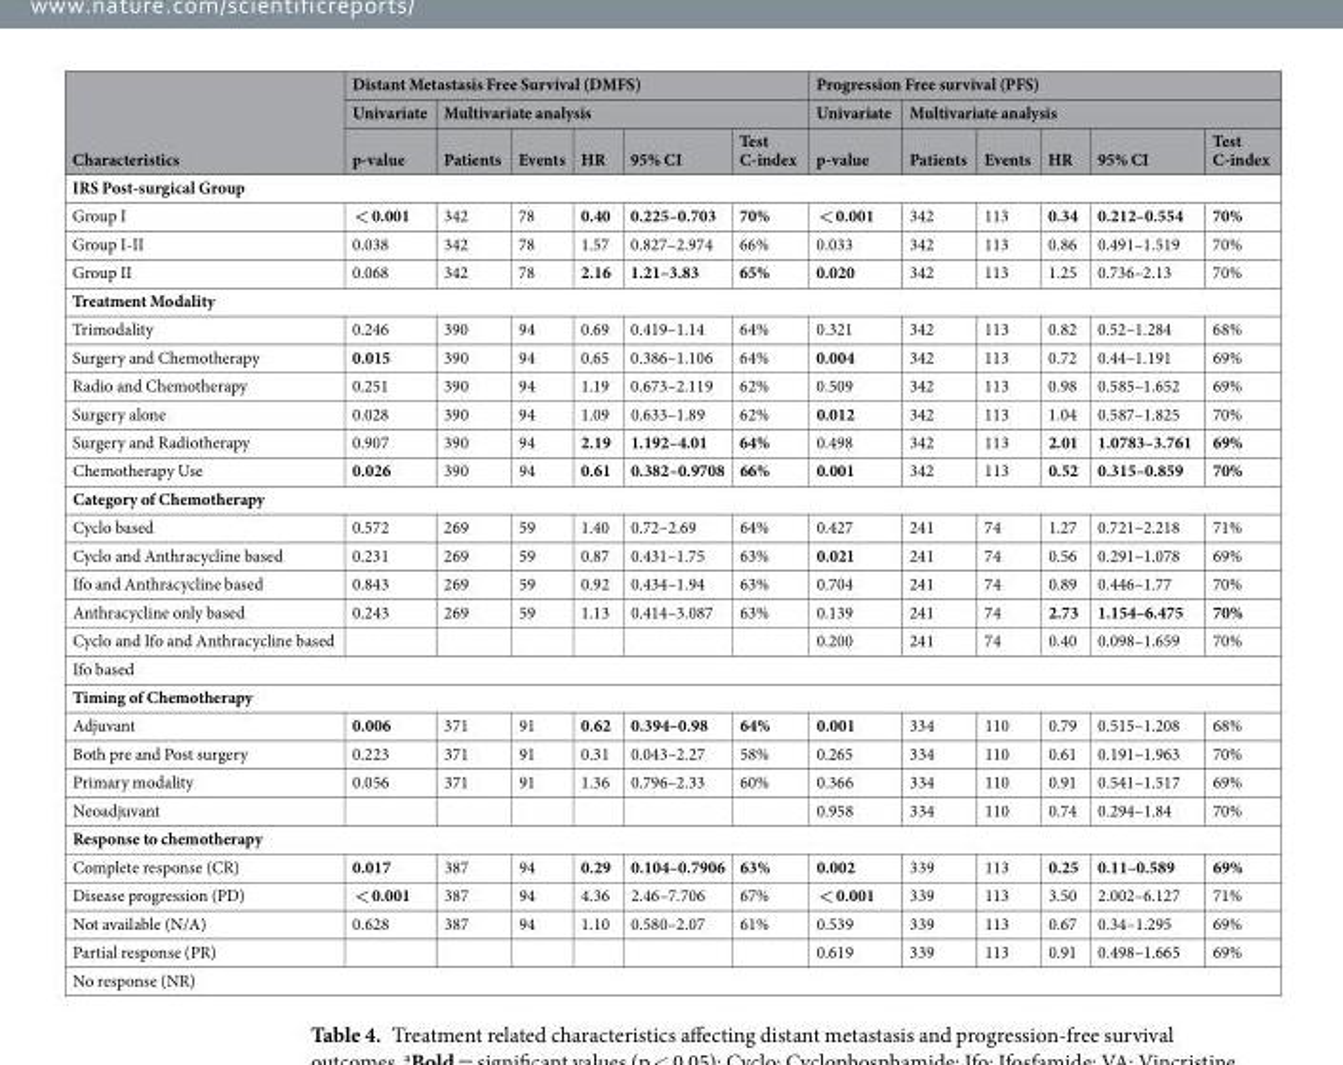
<table><thead><tr><td rowspan="3">Characteristics</td><td colspan="6">Distant Metastasis Free Survival (DMFS)</td><td colspan="6">Progression Free survival (PFS)</td></tr><tr><td rowspan="2">Univariate p-value</td><td colspan="5">Multivariate analysis</td><td rowspan="2">Univariate p-value</td><td colspan="5">Multivariate analysis</td></tr><tr><td>Patients</td><td>Events</td><td>HR</td><td>95% CI</td><td>Test C-index</td><td>Patients</td><td>Events</td><td>HR</td><td>95% CI</td><td>Test C-index</td></tr></thead><tbody><tr><td colspan="13">IRS Post-surgical Group</td></tr><tr><td>Group I</td><td>&lt; 0.001</td><td>342</td><td>78</td><td>0.40</td><td>0.225–0.703</td><td>70%</td><td>&lt; 0.001</td><td>342</td><td>113</td><td>0.34</td><td>0.212–0.554</td><td>70%</td></tr><tr><td>Group I-II</td><td>0.038</td><td>342</td><td>78</td><td>1.57</td><td>0.827–2.974</td><td>66%</td><td>0.033</td><td>342</td><td>113</td><td>0.86</td><td>0.491–1.519</td><td>70%</td></tr><tr><td>Group II</td><td>0.068</td><td>342</td><td>78</td><td>2.16</td><td>1.21–3.83</td><td>65%</td><td>0.020</td><td>342</td><td>113</td><td>1.25</td><td>0.736–2.13</td><td>70%</td></tr><tr><td colspan="13">Treatment Modality</td></tr><tr><td>Trimodality</td><td>0.246</td><td>390</td><td>94</td><td>0.69</td><td>0.419–1.14</td><td>64%</td><td>0.321</td><td>342</td><td>113</td><td>0.82</td><td>0.52–1.284</td><td>68%</td></tr><tr><td>Surgery and Chemotherapy</td><td>0.015</td><td>390</td><td>94</td><td>0.65</td><td>0.386–1.106</td><td>64%</td><td>0.004</td><td>342</td><td>113</td><td>0.72</td><td>0.44–1.191</td><td>69%</td></tr><tr><td>Radio and Chemotherapy</td><td>0.251</td><td>390</td><td>94</td><td>1.19</td><td>0.673–2.119</td><td>62%</td><td>0.509</td><td>342</td><td>113</td><td>0.98</td><td>0.585–1.652</td><td>69%</td></tr><tr><td>Surgery alone</td><td>0.028</td><td>390</td><td>94</td><td>1.09</td><td>0.633–1.89</td><td>62%</td><td>0.012</td><td>342</td><td>113</td><td>1.04</td><td>0.587–1.825</td><td>70%</td></tr><tr><td>Surgery and Radiotherapy</td><td>0.907</td><td>390</td><td>94</td><td>2.19</td><td>1.192–4.01</td><td>64%</td><td>0.498</td><td>342</td><td>113</td><td>2.01</td><td>1.0783–3.761</td><td>69%</td></tr><tr><td>Chemotherapy Use</td><td>0.026</td><td>390</td><td>94</td><td>0.61</td><td>0.382–0.9708</td><td>66%</td><td>0.001</td><td>342</td><td>113</td><td>0.52</td><td>0.315–0.859</td><td>70%</td></tr><tr><td colspan="13">Category of Chemotherapy</td></tr><tr><td>Cyclo based</td><td>0.572</td><td>269</td><td>59</td><td>1.40</td><td>0.72–2.69</td><td>64%</td><td>0.427</td><td>241</td><td>74</td><td>1.27</td><td>0.721–2.218</td><td>71%</td></tr><tr><td>Cyclo and Anthracycline based</td><td>0.231</td><td>269</td><td>59</td><td>0.87</td><td>0.431–1.75</td><td>63%</td><td>0.021</td><td>241</td><td>74</td><td>0.56</td><td>0.291–1.078</td><td>69%</td></tr><tr><td>Ifo and Anthracycline based</td><td>0.843</td><td>269</td><td>59</td><td>0.92</td><td>0.434–1.94</td><td>63%</td><td>0.704</td><td>241</td><td>74</td><td>0.89</td><td>0.446–1.77</td><td>70%</td></tr><tr><td>Anthracycline only based</td><td>0.243</td><td>269</td><td>59</td><td>1.13</td><td>0.414–3.087</td><td>63%</td><td>0.139</td><td>241</td><td>74</td><td>2.73</td><td>1.154–6.475</td><td>70%</td></tr><tr><td>Cyclo and Ifo and Anthracycline based</td><td></td><td></td><td></td><td></td><td></td><td></td><td>0.200</td><td>241</td><td>74</td><td>0.40</td><td>0.098–1.659</td><td>70%</td></tr><tr><td colspan="13">Ifo based</td></tr><tr><td colspan="13">Timing of Chemotherapy</td></tr><tr><td>Adjuvant</td><td>0.006</td><td>371</td><td>91</td><td>0.62</td><td>0.394–0.98</td><td>64%</td><td>0.001</td><td>334</td><td>110</td><td>0.79</td><td>0.515–1.208</td><td>68%</td></tr><tr><td>Both pre and Post surgery</td><td>0.223</td><td>371</td><td>91</td><td>0.31</td><td>0.043–2.27</td><td>58%</td><td>0.265</td><td>334</td><td>110</td><td>0.61</td><td>0.191–1.963</td><td>70%</td></tr><tr><td>Primary modality</td><td>0.056</td><td>371</td><td>91</td><td>1.36</td><td>0.796–2.33</td><td>60%</td><td>0.366</td><td>334</td><td>110</td><td>0.91</td><td>0.541–1.517</td><td>69%</td></tr><tr><td>Neoadjuvant</td><td></td><td></td><td></td><td></td><td></td><td></td><td>0.958</td><td>334</td><td>110</td><td>0.74</td><td>0.294–1.84</td><td>70%</td></tr><tr><td colspan="13">Response to chemotherapy</td></tr><tr><td>Complete response (CR)</td><td>0.017</td><td>387</td><td>94</td><td>0.29</td><td>0.104–0.7906</td><td>63%</td><td>0.002</td><td>339</td><td>113</td><td>0.25</td><td>0.11–0.589</td><td>69%</td></tr><tr><td>Disease progression (PD)</td><td>&lt; 0.001</td><td>387</td><td>94</td><td>4.36</td><td>2.46–7.706</td><td>67%</td><td>&lt; 0.001</td><td>339</td><td>113</td><td>3.50</td><td>2.002–6.127</td><td>71%</td></tr><tr><td>Not available (N/A)</td><td>0.628</td><td>387</td><td>94</td><td>1.10</td><td>0.580–2.07</td><td>61%</td><td>0.539</td><td>339</td><td>113</td><td>0.67</td><td>0.34–1.295</td><td>69%</td></tr><tr><td>Partial response (PR)</td><td></td><td></td><td></td><td></td><td></td><td></td><td>0.619</td><td>339</td><td>113</td><td>0.91</td><td>0.498–1.665</td><td>69%</td></tr><tr><td colspan="13">No response (NR)</td></tr></tbody></table>